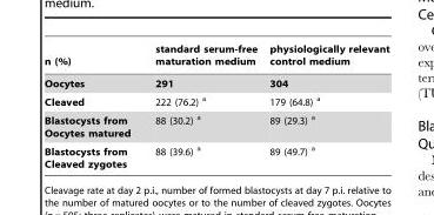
<table><thead><tr><td>n (%)</td><td>standard serum-free maturation medium</td><td>physiologically relevant control medium</td></tr></thead><tbody><tr><td>Oocytes</td><td>291</td><td>304</td></tr><tr><td>Cleaved</td><td>222 (76.2) <sup>a</sup></td><td>179 (64.8) <sup>a</sup></td></tr><tr><td>Blastocysts from Oocytes matured</td><td>88 (30.2) <sup>a</sup></td><td>89 (29.3) <sup>a</sup></td></tr><tr><td>Blastocysts from Cleaved zygotes</td><td>88 (39.6) <sup>a</sup></td><td>89 (49.7) <sup>a</sup></td></tr></tbody></table>